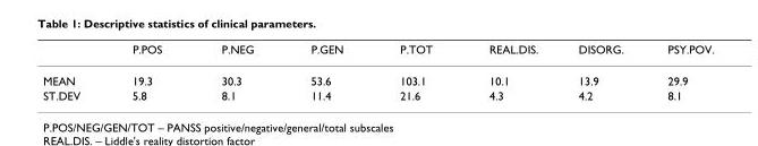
<table><thead><tr><td></td><td>P.POS</td><td>P.NEG</td><td>P.GEN</td><td>P.TOT</td><td>REAL.DIS.</td><td>DISORG.</td><td>PSY.POV.</td></tr></thead><tbody><tr><td>MEAN</td><td>19.3</td><td>30.3</td><td>53.6</td><td>103.1</td><td>10.1</td><td>13.9</td><td>29.9</td></tr><tr><td>ST.DEV</td><td>5.8</td><td>8.1</td><td>11.4</td><td>21.6</td><td>4.3</td><td>4.2</td><td>8.1</td></tr></tbody></table>